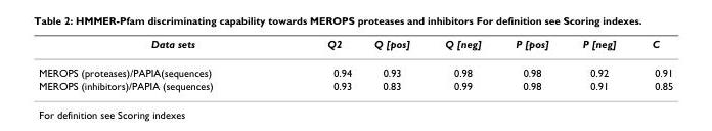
<table><thead><tr><td>Data sets</td><td>Q2</td><td>Q [pos]</td><td>Q [neg]</td><td>P [pos]</td><td>P [neg]</td><td>C</td></tr></thead><tbody><tr><td>MEROPS (proteases)/PAPIA(sequences)</td><td>0.94</td><td>0.93</td><td>0.98</td><td>0.98</td><td>0.92</td><td>0.91</td></tr><tr><td>MEROPS (inhibitors)/PAPIA (sequences)</td><td>0.93</td><td>0.83</td><td>0.99</td><td>0.98</td><td>0.91</td><td>0.85</td></tr></tbody></table>